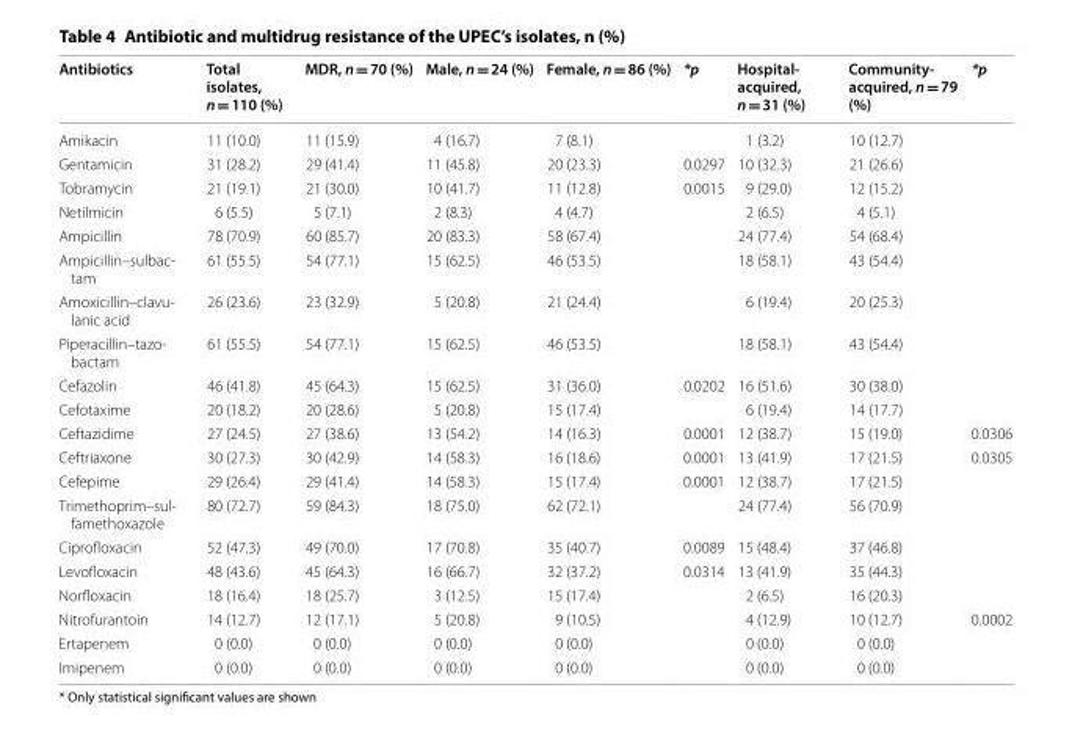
<table><thead><tr><td>Antibiotics</td><td>Total isolates, n = 110 (%)</td><td>MDR, n = 70 (%)</td><td>Male, n = 24 (%)</td><td>Female, n = 86 (%)</td><td>*p</td><td>Hospital‑ acquired, n = 31 (%)</td><td>Community‑ acquired, n = 79 (%)</td><td>*p</td></tr></thead><tbody><tr><td>Amikacin</td><td>11 (10.0)</td><td>11 (15.9)</td><td>4 (16.7)</td><td>7 (8.1)</td><td></td><td>1 (3.2)</td><td>10 (12.7)</td><td></td></tr><tr><td>Gentamicin</td><td>31 (28.2)</td><td>29 (41.4)</td><td>11 (45.8)</td><td>20 (23.3)</td><td>0.0297</td><td>10 (32.3)</td><td>21 (26.6)</td><td></td></tr><tr><td>Tobramycin</td><td>21 (19.1)</td><td>21 (30.0)</td><td>10 (41.7)</td><td>11 (12.8)</td><td>0.0015</td><td>9 (29.0)</td><td>12 (15.2)</td><td></td></tr><tr><td>Netilmicin</td><td>6 (5.5)</td><td>5 (7.1)</td><td>2 (8.3)</td><td>4 (4.7)</td><td></td><td>2 (6.5)</td><td>4 (5.1)</td><td></td></tr><tr><td>Ampicillin</td><td>78 (70.9)</td><td>60 (85.7)</td><td>20 (83.3)</td><td>58 (67.4)</td><td></td><td>24 (77.4)</td><td>54 (68.4)</td><td></td></tr><tr><td>Ampicillin–sulbac‑ tam</td><td>61 (55.5)</td><td>54 (77.1)</td><td>15 (62.5)</td><td>46 (53.5)</td><td></td><td>18 (58.1)</td><td>43 (54.4)</td><td></td></tr><tr><td>Amoxicillin–clavu‑ lanic acid</td><td>26 (23.6)</td><td>23 (32.9)</td><td>5 (20.8)</td><td>21 (24.4)</td><td></td><td>6 (19.4)</td><td>20 (25.3)</td><td></td></tr><tr><td>Piperacillin–tazo‑ bactam</td><td>61 (55.5)</td><td>54 (77.1)</td><td>15 (62.5)</td><td>46 (53.5)</td><td></td><td>18 (58.1)</td><td>43 (54.4)</td><td></td></tr><tr><td>Cefazolin</td><td>46 (41.8)</td><td>45 (64.3)</td><td>15 (62.5)</td><td>31 (36.0)</td><td>0.0202</td><td>16 (51.6)</td><td>30 (38.0)</td><td></td></tr><tr><td>Cefotaxime</td><td>20 (18.2)</td><td>20 (28.6)</td><td>5 (20.8)</td><td>15 (17.4)</td><td></td><td>6 (19.4)</td><td>14 (17.7)</td><td></td></tr><tr><td>Ceftazidime</td><td>27 (24.5)</td><td>27 (38.6)</td><td>13 (54.2)</td><td>14 (16.3)</td><td>0.0001</td><td>12 (38.7)</td><td>15 (19.0)</td><td>0.0306</td></tr><tr><td>Ceftriaxone</td><td>30 (27.3)</td><td>30 (42.9)</td><td>14 (58.3)</td><td>16 (18.6)</td><td>0.0001</td><td>13 (41.9)</td><td>17 (21.5)</td><td>0.0305</td></tr><tr><td>Cefepime</td><td>29 (26.4)</td><td>29 (41.4)</td><td>14 (58.3)</td><td>15 (17.4)</td><td>0.0001</td><td>12 (38.7)</td><td>17 (21.5)</td><td></td></tr><tr><td>Trimethoprim–sul‑ famethoxazole</td><td>80 (72.7)</td><td>59 (84.3)</td><td>18 (75.0)</td><td>62 (72.1)</td><td></td><td>24 (77.4)</td><td>56 (70.9)</td><td></td></tr><tr><td>Ciprofloxacin</td><td>52 (47.3)</td><td>49 (70.0)</td><td>17 (70.8)</td><td>35 (40.7)</td><td>0.0089</td><td>15 (48.4)</td><td>37 (46.8)</td><td></td></tr><tr><td>Levofloxacin</td><td>48 (43.6)</td><td>45 (64.3)</td><td>16 (66.7)</td><td>32 (37.2)</td><td>0.0314</td><td>13 (41.9)</td><td>35 (44.3)</td><td></td></tr><tr><td>Norfloxacin</td><td>18 (16.4)</td><td>18 (25.7)</td><td>3 (12.5)</td><td>15 (17.4)</td><td></td><td>2 (6.5)</td><td>16 (20.3)</td><td></td></tr><tr><td>Nitrofurantoin</td><td>14 (12.7)</td><td>12 (17.1)</td><td>5 (20.8)</td><td>9 (10.5)</td><td></td><td>4 (12.9)</td><td>10 (12.7)</td><td>0.0002</td></tr><tr><td>Ertapenem</td><td>0 (0.0)</td><td>0 (0.0)</td><td>0 (0.0)</td><td>0 (0.0)</td><td></td><td>0 (0.0)</td><td>0 (0.0)</td><td></td></tr><tr><td>Imipenem</td><td>0 (0.0)</td><td>0 (0.0)</td><td>0 (0.0)</td><td>0 (0.0)</td><td></td><td>0 (0.0)</td><td>0 (0.0)</td><td></td></tr></tbody></table>